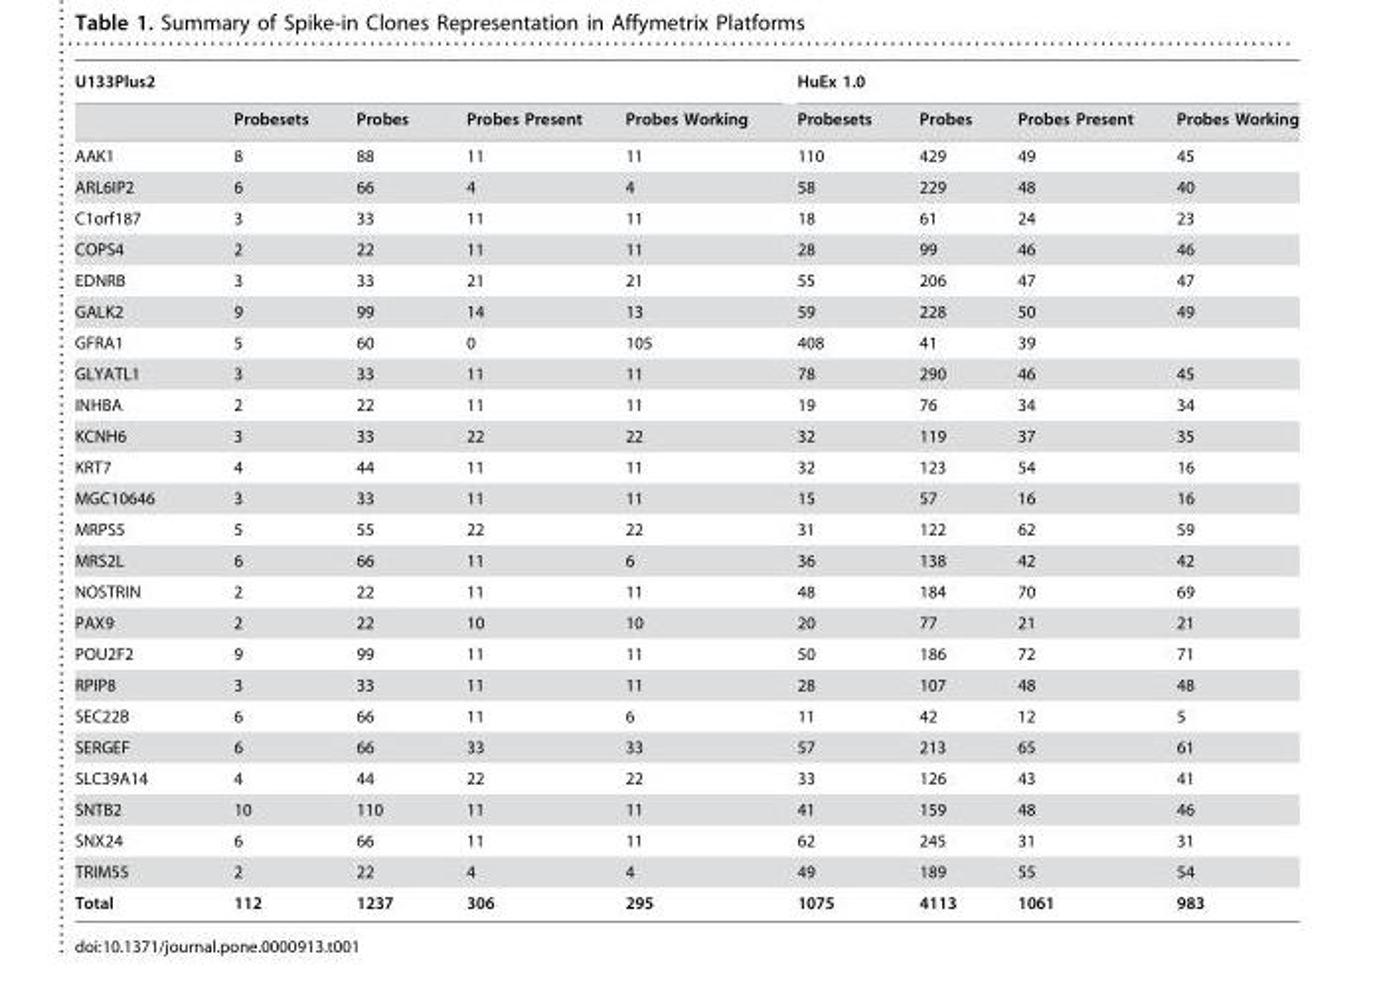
<table><thead><tr><td colspan="5">U133Plus2</td><td colspan="4">HuEx 1.0</td></tr><tr><td></td><td>Probesets</td><td>Probes</td><td>Probes Present</td><td>Probes Working</td><td>Probesets</td><td>Probes</td><td>Probes Present</td><td>Probes Working</td></tr></thead><tbody><tr><td>AAK1</td><td>8</td><td>88</td><td>11</td><td>11</td><td>110</td><td>429</td><td>49</td><td>45</td></tr><tr><td>ARL6IP2</td><td>6</td><td>66</td><td>4</td><td>4</td><td>58</td><td>229</td><td>48</td><td>40</td></tr><tr><td>C1orf187</td><td>3</td><td>33</td><td>11</td><td>11</td><td>18</td><td>61</td><td>24</td><td>23</td></tr><tr><td>COPS4</td><td>2</td><td>22</td><td>11</td><td>11</td><td>28</td><td>99</td><td>46</td><td>46</td></tr><tr><td>EDNRB</td><td>3</td><td>33</td><td>21</td><td>21</td><td>55</td><td>206</td><td>47</td><td>47</td></tr><tr><td>GALK2</td><td>9</td><td>99</td><td>14</td><td>13</td><td>59</td><td>228</td><td>50</td><td>49</td></tr><tr><td>GFRA1</td><td>5</td><td>60</td><td>0</td><td>105</td><td>408</td><td>41</td><td>39</td><td></td></tr><tr><td>GLYATL1</td><td>3</td><td>33</td><td>11</td><td>11</td><td>78</td><td>290</td><td>46</td><td>45</td></tr><tr><td>INHBA</td><td>2</td><td>22</td><td>11</td><td>11</td><td>19</td><td>76</td><td>34</td><td>34</td></tr><tr><td>KCNH6</td><td>3</td><td>33</td><td>22</td><td>22</td><td>32</td><td>119</td><td>37</td><td>35</td></tr><tr><td>KRT7</td><td>4</td><td>44</td><td>11</td><td>11</td><td>32</td><td>123</td><td>54</td><td>16</td></tr><tr><td>MGC10646</td><td>3</td><td>33</td><td>11</td><td>11</td><td>15</td><td>57</td><td>16</td><td>16</td></tr><tr><td>MRPS5</td><td>5</td><td>55</td><td>22</td><td>22</td><td>31</td><td>122</td><td>62</td><td>59</td></tr><tr><td>MRS2L</td><td>6</td><td>66</td><td>11</td><td>6</td><td>36</td><td>138</td><td>42</td><td>42</td></tr><tr><td>NOSTRIN</td><td>2</td><td>22</td><td>11</td><td>11</td><td>48</td><td>184</td><td>70</td><td>69</td></tr><tr><td>PAX9</td><td>2</td><td>22</td><td>10</td><td>10</td><td>20</td><td>77</td><td>21</td><td>21</td></tr><tr><td>POU2F2</td><td>9</td><td>99</td><td>11</td><td>11</td><td>50</td><td>186</td><td>72</td><td>71</td></tr><tr><td>RPIP8</td><td>3</td><td>33</td><td>11</td><td>11</td><td>28</td><td>107</td><td>48</td><td>48</td></tr><tr><td>SEC22B</td><td>6</td><td>66</td><td>11</td><td>6</td><td>11</td><td>42</td><td>12</td><td>5</td></tr><tr><td>SERGEF</td><td>6</td><td>66</td><td>33</td><td>33</td><td>57</td><td>213</td><td>65</td><td>61</td></tr><tr><td>SLC39A14</td><td>4</td><td>44</td><td>22</td><td>22</td><td>33</td><td>126</td><td>43</td><td>41</td></tr><tr><td>SNTB2</td><td>10</td><td>110</td><td>11</td><td>11</td><td>41</td><td>159</td><td>48</td><td>46</td></tr><tr><td>SNX24</td><td>6</td><td>66</td><td>11</td><td>11</td><td>62</td><td>245</td><td>31</td><td>31</td></tr><tr><td>TRIM55</td><td>2</td><td>22</td><td>4</td><td>4</td><td>49</td><td>189</td><td>55</td><td>54</td></tr><tr><td>Total</td><td>112</td><td>1237</td><td>306</td><td>295</td><td>1075</td><td>4113</td><td>1061</td><td>983</td></tr></tbody></table>